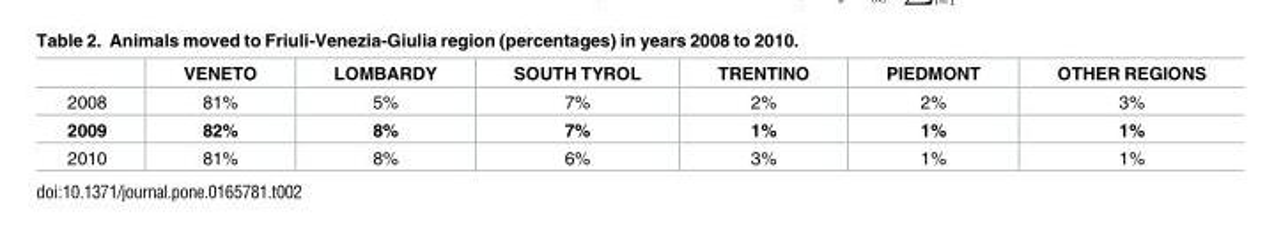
<table><thead><tr><td></td><td>VENETO</td><td>LOMBARDY</td><td>SOUTH TYROL</td><td>TRENTINO</td><td>PIEDMONT</td><td>OTHER REGIONS</td></tr></thead><tbody><tr><td>2008</td><td>81%</td><td>5%</td><td>7%</td><td>2%</td><td>2%</td><td>3%</td></tr><tr><td>2009</td><td>82%</td><td>8%</td><td>7%</td><td>1%</td><td>1%</td><td>1%</td></tr><tr><td>2010</td><td>81%</td><td>8%</td><td>6%</td><td>3%</td><td>1%</td><td>1%</td></tr></tbody></table>